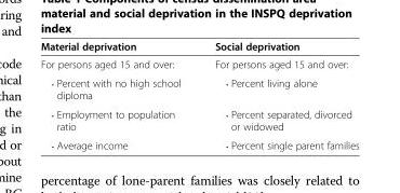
<table><thead><tr><td>Material deprivation</td><td>Social deprivation</td></tr></thead><tbody><tr><td>For persons aged 15 and over:</td><td>For persons aged 15 and over:</td></tr><tr><td>• Percent with no high school diploma</td><td>• Percent living alone</td></tr><tr><td>• Employment to population ratio</td><td>• Percent separated, divorced or widowed</td></tr><tr><td>• Average income</td><td>• Percent single parent families</td></tr></tbody></table>